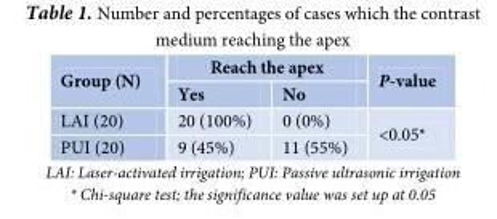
<table><thead><tr><td rowspan="2">Group (N)</td><td colspan="2">Reach the apex</td><td rowspan="2">P-value</td></tr><tr><td>Yes</td><td>No</td></tr></thead><tbody><tr><td>LAI (20)</td><td>20 (100%)</td><td>0 (0%)</td><td rowspan="2">&lt;0.05*</td></tr><tr><td>PUI (20)</td><td>9 (45%)</td><td>11 (55%)</td></tr></tbody></table>